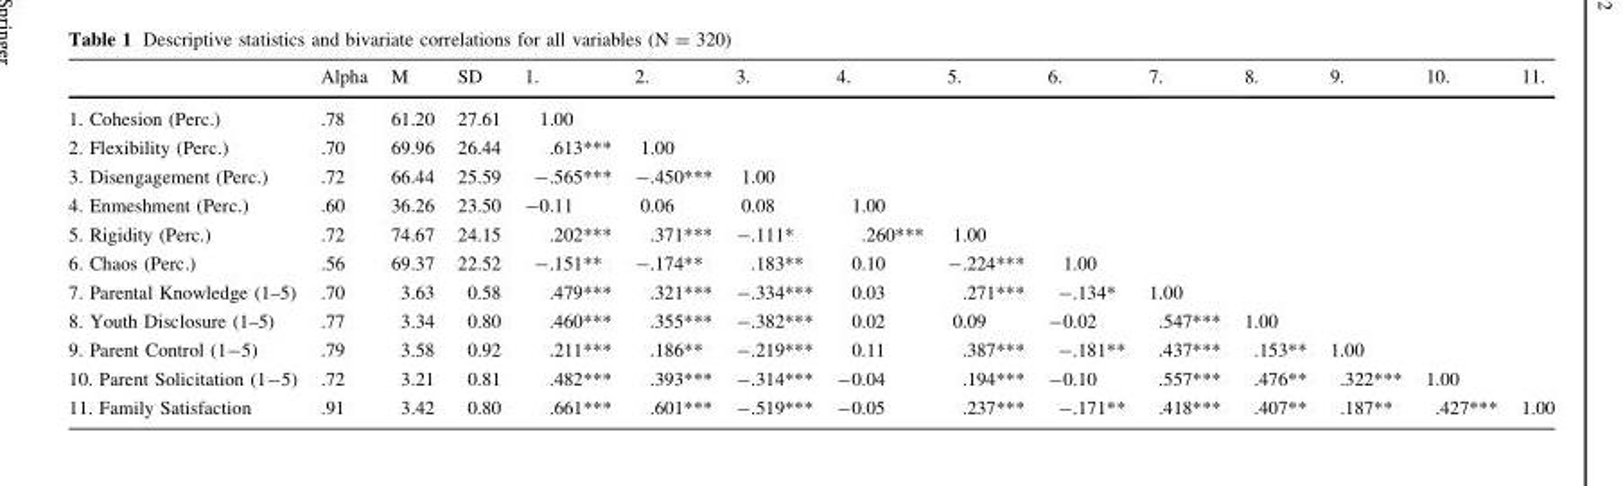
<table><thead><tr><td></td><td>Alpha</td><td>M</td><td>SD</td><td>1.</td><td>2.</td><td>3.</td><td>4.</td><td>5.</td><td>6.</td><td>7.</td><td>8.</td><td>9.</td><td>10.</td><td>11.</td></tr></thead><tbody><tr><td>1. Cohesion (Perc.)</td><td>.78</td><td>61.20</td><td>27.61</td><td>1.00</td><td></td><td></td><td></td><td></td><td></td><td></td><td></td><td></td><td></td><td></td></tr><tr><td>2. Flexibility (Perc.)</td><td>.70</td><td>69.96</td><td>26.44</td><td>.613***</td><td>1.00</td><td></td><td></td><td></td><td></td><td></td><td></td><td></td><td></td><td></td></tr><tr><td>3. Disengagement (Perc.)</td><td>.72</td><td>66.44</td><td>25.59</td><td>-.565***</td><td>-.450***</td><td>1.00</td><td></td><td></td><td></td><td></td><td></td><td></td><td></td><td></td></tr><tr><td>4. Enmeshment (Perc.)</td><td>.60</td><td>36.26</td><td>23.50</td><td>-0.11</td><td>0.06</td><td>0.08</td><td>1.00</td><td></td><td></td><td></td><td></td><td></td><td></td><td></td></tr><tr><td>5. Rigidity (Perc.)</td><td>.72</td><td>74.67</td><td>24.15</td><td>.202***</td><td>.371***</td><td>-.111*</td><td>.260***</td><td>1.00</td><td></td><td></td><td></td><td></td><td></td><td></td></tr><tr><td>6. Chaos (Perc.)</td><td>.56</td><td>69.37</td><td>22.52</td><td>-.151**</td><td>-.174**</td><td>.183**</td><td>0.10</td><td>-.224***</td><td>1.00</td><td></td><td></td><td></td><td></td><td></td></tr><tr><td>7. Parental Knowledge (1–5)</td><td>.70</td><td>3.63</td><td>0.58</td><td>.479***</td><td>.321***</td><td>-.334***</td><td>0.03</td><td>.271***</td><td>-.134*</td><td>1.00</td><td></td><td></td><td></td><td></td></tr><tr><td>8. Youth Disclosure (1–5)</td><td>.77</td><td>3.34</td><td>0.80</td><td>.460***</td><td>.355***</td><td>-.382***</td><td>0.02</td><td>0.09</td><td>-0.02</td><td>.547***</td><td>1.00</td><td></td><td></td><td></td></tr><tr><td>9. Parent Control (1-5)</td><td>.79</td><td>3.58</td><td>0.92</td><td>.211***</td><td>.186**</td><td>-.219***</td><td>0.11</td><td>.387***</td><td>-.181**</td><td>.437***</td><td>.153**</td><td>1.00</td><td></td><td></td></tr><tr><td>10. Parent Solicitation (1-5)</td><td>.72</td><td>3.21</td><td>0.81</td><td>.482***</td><td>.393***</td><td>-.314***</td><td>-0.04</td><td>.194***</td><td>-0.10</td><td>.557***</td><td>.476**</td><td>.322***</td><td>1.00</td><td></td></tr><tr><td>11. Family Satisfaction</td><td>.91</td><td>3.42</td><td>0.80</td><td>.661***</td><td>.601***</td><td>-.519***</td><td>-0.05</td><td>.237***</td><td>-.171**</td><td>.418***</td><td>.407**</td><td>.187**</td><td>.427***</td><td>1.00</td></tr></tbody></table>